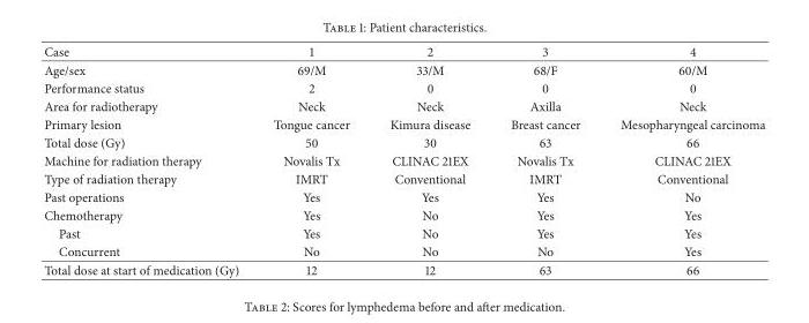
<table><thead><tr><td>Case</td><td>1</td><td>2</td><td>3</td><td>4</td></tr></thead><tbody><tr><td>Age/sex</td><td>69/M</td><td>33/M</td><td>68/F</td><td>60/M</td></tr><tr><td>Performance status</td><td>2</td><td>0</td><td>0</td><td>0</td></tr><tr><td>Area for radiotherapy</td><td>Neck</td><td>Neck</td><td>Axilla</td><td>Neck</td></tr><tr><td>Primary lesion</td><td>Tongue cancer</td><td>Kimura disease</td><td>Breast cancer</td><td>Mesopharyngeal carcinoma</td></tr><tr><td>Total dose (Gy)</td><td>50</td><td>30</td><td>63</td><td>66</td></tr><tr><td>Machine for radiation therapy</td><td>Novalis Tx</td><td>CLINAC 21EX</td><td>Novalis Tx</td><td>CLINAC 21EX</td></tr><tr><td>Type of radiation therapy</td><td>IMRT</td><td>Conventional</td><td>IMRT</td><td>Conventional</td></tr><tr><td>Past operations</td><td>Yes</td><td>Yes</td><td>Yes</td><td>No</td></tr><tr><td>Chemotherapy</td><td>Yes</td><td>No</td><td>Yes</td><td>Yes</td></tr><tr><td>Past</td><td>Yes</td><td>No</td><td>Yes</td><td>Yes</td></tr><tr><td>Concurrent</td><td>No</td><td>No</td><td>No</td><td>Yes</td></tr><tr><td>Total dose at start of medication (Gy)</td><td>12</td><td>12</td><td>63</td><td>66</td></tr></tbody></table>